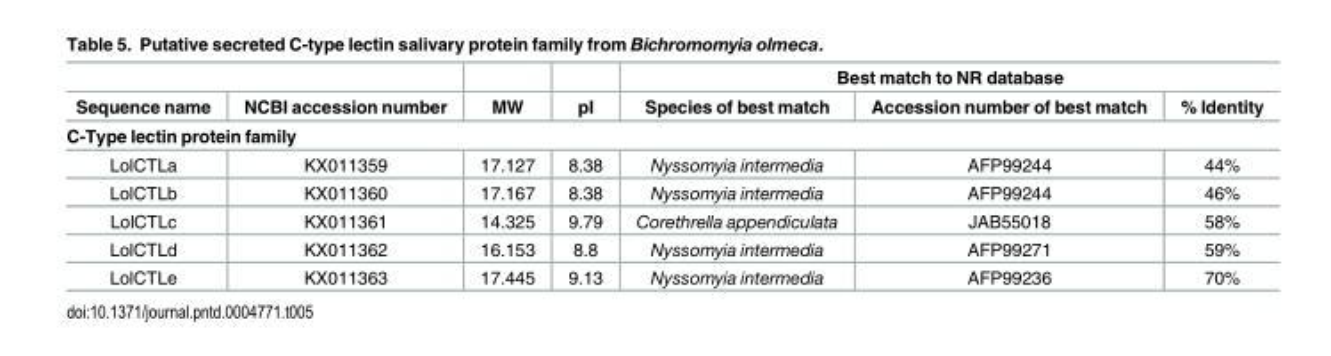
<table><thead><tr><td rowspan="2">Sequence name</td><td rowspan="2">NCBI accession number</td><td rowspan="2">MW</td><td rowspan="2">pI</td><td colspan="3">Best match to NR database</td></tr><tr><td>Species of best match</td><td>Accession number of best match</td><td>% Identity</td></tr><tr><td colspan="7">C-Type lectin protein family</td></tr></thead><tbody><tr><td>LolCTLa</td><td>KX011359</td><td>17.127</td><td>8.38</td><td>Nyssomyia intermedia</td><td>AFP99244</td><td>44%</td></tr><tr><td>LolCTLb</td><td>KX011360</td><td>17.167</td><td>8.38</td><td>Nyssomyia intermedia</td><td>AFP99244</td><td>46%</td></tr><tr><td>LolCTLc</td><td>KX011361</td><td>14.325</td><td>9.79</td><td>Corethrella appendiculata</td><td>JAB55018</td><td>58%</td></tr><tr><td>LolCTLd</td><td>KX011362</td><td>16.153</td><td>8.8</td><td>Nyssomyia intermedia</td><td>AFP99271</td><td>59%</td></tr><tr><td>LolCTLe</td><td>KX011363</td><td>17.445</td><td>9.13</td><td>Nyssomyia intermedia</td><td>AFP99236</td><td>70%</td></tr></tbody></table>